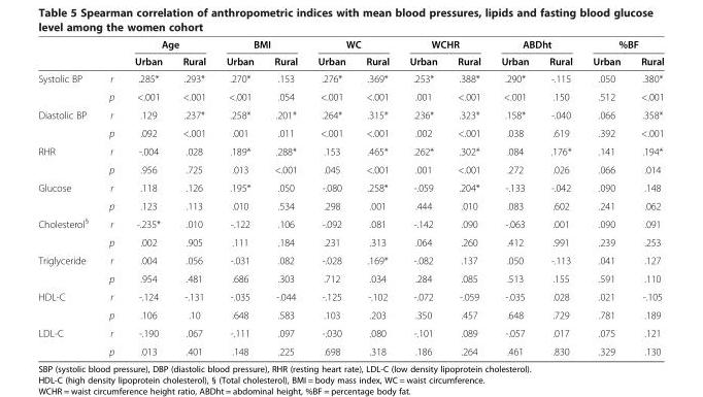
<table><thead><tr><td rowspan="2"></td><td rowspan="2"></td><td colspan="2">Age</td><td colspan="2">BMI</td><td colspan="2">WC</td><td colspan="2">WCHR</td><td colspan="2">ABDht</td><td colspan="2">%BF</td></tr><tr><td>Urban</td><td>Rural</td><td>Urban</td><td>Rural</td><td>Urban</td><td>Rural</td><td>Urban</td><td>Rural</td><td>Urban</td><td>Rural</td><td>Urban</td><td>Rural</td></tr></thead><tbody><tr><td rowspan="2">Systolic BP</td><td>r</td><td>.285*</td><td>.293*</td><td>.270*</td><td>.153</td><td>.276*</td><td>.369*</td><td>.253*</td><td>.388*</td><td>.290*</td><td>-.115</td><td>.050</td><td>.380*</td></tr><tr><td>p</td><td>&lt;.001</td><td>&lt;.001</td><td>&lt;.001</td><td>.054</td><td>&lt;.001</td><td>&lt;.001</td><td>.001</td><td>&lt;.001</td><td>&lt;.001</td><td>.150</td><td>.512</td><td>&lt;.001</td></tr><tr><td rowspan="2">Diastolic BP</td><td>r</td><td>.129</td><td>.237*</td><td>.258*</td><td>.201*</td><td>.264*</td><td>.315*</td><td>.236*</td><td>.323*</td><td>.158*</td><td>-.040</td><td>.066</td><td>.358*</td></tr><tr><td>p</td><td>.092</td><td>&lt;.001</td><td>.001</td><td>.011</td><td>&lt;.001</td><td>&lt;.001</td><td>.002</td><td>&lt;.001</td><td>.038</td><td>.619</td><td>.392</td><td>&lt;.001</td></tr><tr><td rowspan="2">RHR</td><td>r</td><td>-.004</td><td>.028</td><td>.189*</td><td>.288*</td><td>.153</td><td>.465*</td><td>.262*</td><td>.302*</td><td>.084</td><td>.176*</td><td>.141</td><td>.194*</td></tr><tr><td>p</td><td>.956</td><td>.725</td><td>.013</td><td>&lt;.001</td><td>.045</td><td>&lt;.001</td><td>.001</td><td>&lt;.001</td><td>.272</td><td>.026</td><td>.066</td><td>.014</td></tr><tr><td rowspan="2">Glucose</td><td>r</td><td>.118</td><td>.126</td><td>.195*</td><td>.050</td><td>-.080</td><td>.258*</td><td>-.059</td><td>.204*</td><td>-.133</td><td>-.042</td><td>.090</td><td>.148</td></tr><tr><td>p</td><td>.123</td><td>.113</td><td>.010</td><td>.534</td><td>.298</td><td>.001</td><td>.444</td><td>.010</td><td>.083</td><td>.602</td><td>.241</td><td>.062</td></tr><tr><td rowspan="2">Cholesterol<sup>§</sup></td><td>r</td><td>-.235*</td><td>.010</td><td>-.122</td><td>.106</td><td>-.092</td><td>.081</td><td>-.142</td><td>.090</td><td>-.063</td><td>.001</td><td>.090</td><td>.091</td></tr><tr><td>p</td><td>.002</td><td>.905</td><td>.111</td><td>.184</td><td>.231</td><td>.313</td><td>.064</td><td>.260</td><td>.412</td><td>.991</td><td>.239</td><td>.253</td></tr><tr><td rowspan="2">Triglyceride</td><td>r</td><td>.004</td><td>.056</td><td>-.031</td><td>.082</td><td>-.028</td><td>.169*</td><td>-.082</td><td>.137</td><td>.050</td><td>-.113</td><td>.041</td><td>.127</td></tr><tr><td>p</td><td>.954</td><td>.481</td><td>.686</td><td>.303</td><td>.712</td><td>.034</td><td>.284</td><td>.085</td><td>.513</td><td>.155</td><td>.591</td><td>.110</td></tr><tr><td rowspan="2">HDL-C</td><td>r</td><td>-.124</td><td>-.131</td><td>-.035</td><td>-.044</td><td>-.125</td><td>-.102</td><td>-.072</td><td>-.059</td><td>-.035</td><td>.028</td><td>.021</td><td>-.105</td></tr><tr><td>p</td><td>.106</td><td>.10</td><td>.648</td><td>.583</td><td>.103</td><td>.203</td><td>.350</td><td>.457</td><td>.648</td><td>.729</td><td>.781</td><td>.189</td></tr><tr><td rowspan="2">LDL-C</td><td>r</td><td>-.190</td><td>.067</td><td>-.111</td><td>.097</td><td>-.030</td><td>.080</td><td>-.101</td><td>.089</td><td>-.057</td><td>.017</td><td>.075</td><td>.121</td></tr><tr><td>p</td><td>.013</td><td>.401</td><td>.148</td><td>.225</td><td>.698</td><td>.318</td><td>.186</td><td>.264</td><td>.461</td><td>.830</td><td>.329</td><td>.130</td></tr></tbody></table>